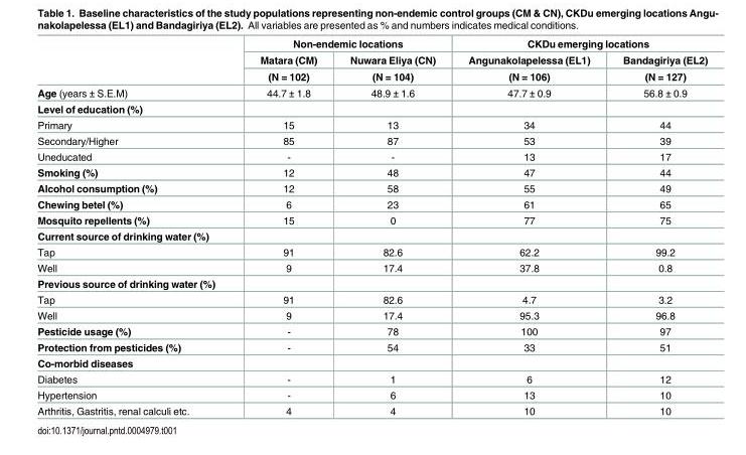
<table><thead><tr><td rowspan="3"></td><td colspan="2">Non-endemic locations</td><td colspan="2">CKDu emerging locations</td></tr><tr><td rowspan="2">Matara (CM) (N = 102)</td><td rowspan="2">Nuwara Eliya (CN) (N = 104)</td><td rowspan="2">Angunakolapelessa (EL1) (N = 106)</td><td rowspan="2">Bandagiriya (EL2) (N = 127)</td></tr><tr></tr></thead><tbody><tr><td>Age (years ± S.E.M)</td><td>44.7 ± 1.8</td><td>48.9 ± 1.6</td><td>47.7 ± 0.9</td><td>56.8 ± 0.9</td></tr><tr><td colspan="5">Level of education (%)</td></tr><tr><td>Primary</td><td>15</td><td>13</td><td>34</td><td>44</td></tr><tr><td>Secondary/Higher</td><td>85</td><td>87</td><td>53</td><td>39</td></tr><tr><td>Uneducated</td><td>-</td><td>-</td><td>13</td><td>17</td></tr><tr><td>Smoking (%)</td><td>12</td><td>48</td><td>47</td><td>44</td></tr><tr><td>Alcohol consumption (%)</td><td>12</td><td>58</td><td>55</td><td>49</td></tr><tr><td>Chewing betel (%)</td><td>6</td><td>23</td><td>61</td><td>65</td></tr><tr><td>Mosquito repellents (%)</td><td>15</td><td>0</td><td>77</td><td>75</td></tr><tr><td colspan="5">Current source of drinking water (%)</td></tr><tr><td>Tap</td><td>91</td><td>82.6</td><td>62.2</td><td>99.2</td></tr><tr><td>Well</td><td>9</td><td>17.4</td><td>37.8</td><td>0.8</td></tr><tr><td colspan="5">Previous source of drinking water (%)</td></tr><tr><td>Tap</td><td>91</td><td>82.6</td><td>4.7</td><td>3.2</td></tr><tr><td>Well</td><td>9</td><td>17.4</td><td>95.3</td><td>96.8</td></tr><tr><td>Pesticide usage (%)</td><td>-</td><td>78</td><td>100</td><td>97</td></tr><tr><td>Protection from pesticides (%)</td><td>-</td><td>54</td><td>33</td><td>51</td></tr><tr><td colspan="5">Co-morbid diseases</td></tr><tr><td>Diabetes</td><td>-</td><td>1</td><td>6</td><td>12</td></tr><tr><td>Hypertension</td><td>-</td><td>6</td><td>13</td><td>10</td></tr><tr><td>Arthritis, Gastritis, renal calculi etc.</td><td>4</td><td>4</td><td>10</td><td>10</td></tr></tbody></table>